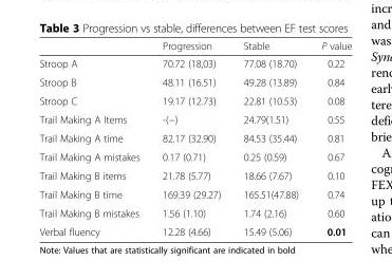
<table><thead><tr><td></td><td>Progression</td><td>Stable</td><td>P value</td></tr></thead><tbody><tr><td>Stroop A</td><td>70.72 (18,03)</td><td>77.08 (18.70)</td><td>0.22</td></tr><tr><td>Stroop B</td><td>48.11 (16.51)</td><td>49.28 (13.89)</td><td>0.84</td></tr><tr><td>Stroop C</td><td>19.17 (12.73)</td><td>22.81 (10.53)</td><td>0.08</td></tr><tr><td>Trail Making A Items</td><td>-(−)</td><td>24.79(1.51)</td><td>0.55</td></tr><tr><td>Trail Making A time</td><td>82.17 (32.90)</td><td>84.53 (35.44)</td><td>0.81</td></tr><tr><td>Trail Making A mistakes</td><td>0.17 (0.71)</td><td>0.25 (0.59)</td><td>0.67</td></tr><tr><td>Trail Making B items</td><td>21.78 (5.77)</td><td>18.66 (7.67)</td><td>0.10</td></tr><tr><td>Trail Making B time</td><td>169.39 (29.27)</td><td>165.51(47.88)</td><td>0.74</td></tr><tr><td>Trail Making B mistakes</td><td>1.56 (1.10)</td><td>1.74 (2.16)</td><td>0.60</td></tr><tr><td>Verbal fluency</td><td>12.28 (4.66)</td><td>15.49 (5.06)</td><td>0.01</td></tr></tbody></table>